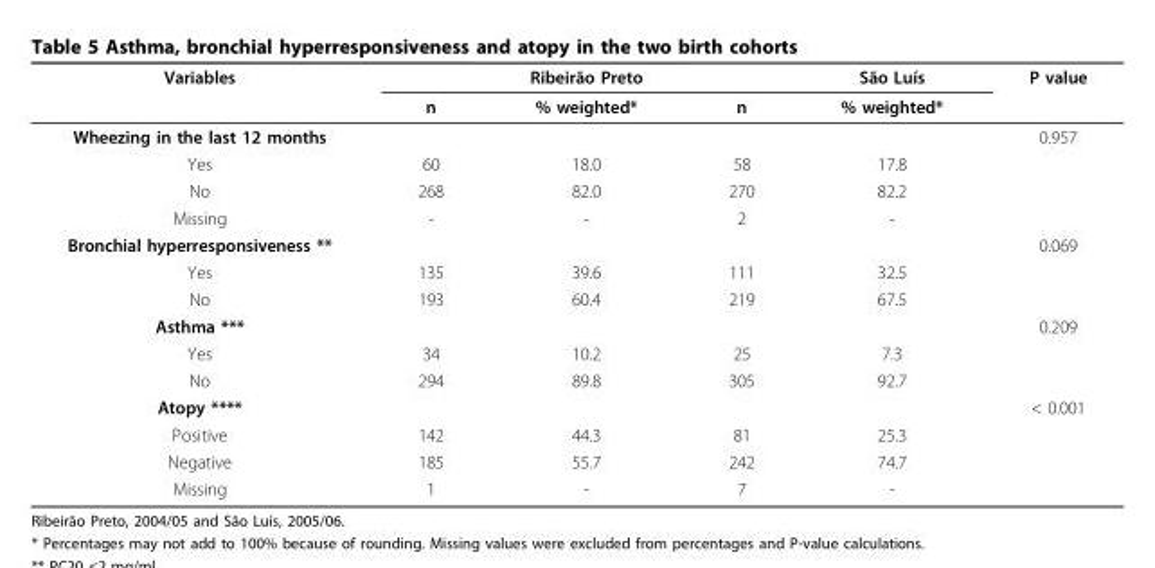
<table><thead><tr><td rowspan="2">Variables</td><td rowspan="2">n</td><td rowspan="2">Ribeirão Preto % weighted*</td><td rowspan="2">n</td><td rowspan="2">São Luís % weighted*</td><td rowspan="2">P value</td></tr><tr></tr></thead><tbody><tr><td>Wheezing in the last 12 months</td><td></td><td></td><td></td><td></td><td>0.957</td></tr><tr><td>Yes</td><td>60</td><td>18.0</td><td>58</td><td>17.8</td><td></td></tr><tr><td>No</td><td>268</td><td>82.0</td><td>270</td><td>82.2</td><td></td></tr><tr><td>Missing</td><td>-</td><td>-</td><td>2</td><td>-</td><td></td></tr><tr><td>Bronchial hyperresponsiveness **</td><td></td><td></td><td></td><td></td><td>0.069</td></tr><tr><td>Yes</td><td>135</td><td>39.6</td><td>111</td><td>32.5</td><td></td></tr><tr><td>No</td><td>193</td><td>60.4</td><td>219</td><td>67.5</td><td></td></tr><tr><td>Asthma ***</td><td></td><td></td><td></td><td></td><td>0.209</td></tr><tr><td>Yes</td><td>34</td><td>10.2</td><td>25</td><td>7.3</td><td></td></tr><tr><td>No</td><td>294</td><td>89.8</td><td>305</td><td>92.7</td><td></td></tr><tr><td>Atopy ****</td><td></td><td></td><td></td><td></td><td>&lt; 0.001</td></tr><tr><td>Positive</td><td>142</td><td>44.3</td><td>81</td><td>25.3</td><td></td></tr><tr><td>Negative</td><td>185</td><td>55.7</td><td>242</td><td>74.7</td><td></td></tr><tr><td>Missing</td><td>1</td><td>-</td><td>7</td><td>-</td><td></td></tr></tbody></table>